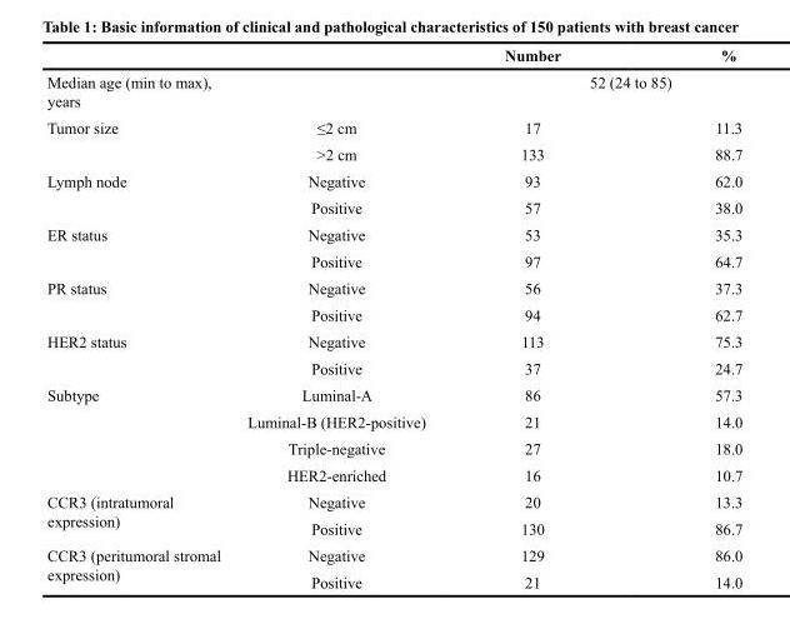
<table><thead><tr><td></td><td></td><td>Number</td><td>%</td></tr></thead><tbody><tr><td>Median age (min to max), years</td><td></td><td colspan="2">52 (24 to 85)</td></tr><tr><td rowspan="2">Tumor size</td><td>≤2 cm</td><td>17</td><td>11.3</td></tr><tr><td>&gt;2 cm</td><td>133</td><td>88.7</td></tr><tr><td rowspan="2">Lymph node</td><td>Negative</td><td>93</td><td>62.0</td></tr><tr><td>Positive</td><td>57</td><td>38.0</td></tr><tr><td rowspan="2">ER status</td><td>Negative</td><td>53</td><td>35.3</td></tr><tr><td>Positive</td><td>97</td><td>64.7</td></tr><tr><td rowspan="2">PR status</td><td>Negative</td><td>56</td><td>37.3</td></tr><tr><td>Positive</td><td>94</td><td>62.7</td></tr><tr><td rowspan="2">HER2 status</td><td>Negative</td><td>113</td><td>75.3</td></tr><tr><td>Positive</td><td>37</td><td>24.7</td></tr><tr><td rowspan="4">Subtype</td><td>Luminal-A</td><td>86</td><td>57.3</td></tr><tr><td>Luminal-B (HER2-positive)</td><td>21</td><td>14.0</td></tr><tr><td>Triple-negative</td><td>27</td><td>18.0</td></tr><tr><td>HER2-enriched</td><td>16</td><td>10.7</td></tr><tr><td rowspan="2">CCR3 (intratumoral expression)</td><td>Negative</td><td>20</td><td>13.3</td></tr><tr><td>Positive</td><td>130</td><td>86.7</td></tr><tr><td rowspan="2">CCR3 (peritumoral stromal expression)</td><td>Negative</td><td>129</td><td>86.0</td></tr><tr><td>Positive</td><td>21</td><td>14.0</td></tr></tbody></table>